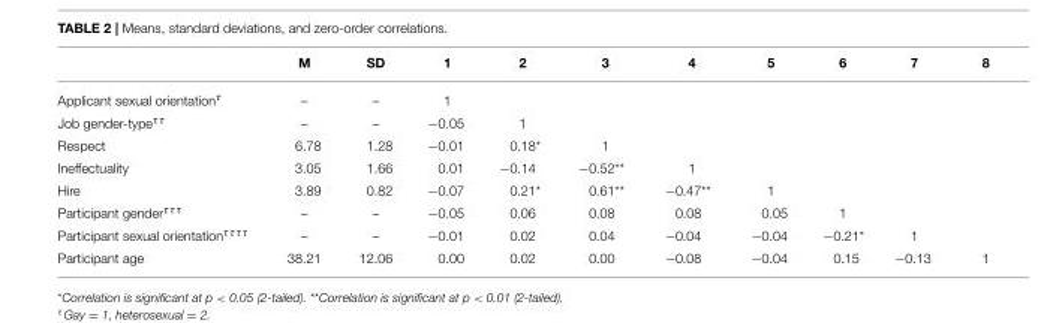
<table><thead><tr><td></td><td>M</td><td>SD</td><td>1</td><td>2</td><td>3</td><td>4</td><td>5</td><td>6</td><td>7</td><td>8</td></tr></thead><tbody><tr><td>Applicant sexual orientation<sup>τ</sup></td><td>–</td><td>–</td><td>1</td><td></td><td></td><td></td><td></td><td></td><td></td><td></td></tr><tr><td>Job gender-type<sup>ττ</sup></td><td>–</td><td>–</td><td>−0.05</td><td>1</td><td></td><td></td><td></td><td></td><td></td><td></td></tr><tr><td>Respect</td><td>6.78</td><td>1.28</td><td>−0.01</td><td>0.18*</td><td>1</td><td></td><td></td><td></td><td></td><td></td></tr><tr><td>Ineffectuality</td><td>3.05</td><td>1.66</td><td>0.01</td><td>−0.14</td><td>−0.52**</td><td>1</td><td></td><td></td><td></td><td></td></tr><tr><td>Hire</td><td>3.89</td><td>0.82</td><td>−0.07</td><td>0.21*</td><td>0.61**</td><td>−0.47**</td><td>1</td><td></td><td></td><td></td></tr><tr><td>Participant gender<sup>τττ</sup></td><td>–</td><td>–</td><td>−0.05</td><td>0.06</td><td>0.08</td><td>0.08</td><td>0.05</td><td>1</td><td></td><td></td></tr><tr><td>Participant sexual orientation<sup>ττττ</sup></td><td>–</td><td>–</td><td>−0.01</td><td>0.02</td><td>0.04</td><td>−0.04</td><td>−0.04</td><td>−0.21*</td><td>1</td><td></td></tr><tr><td>Participant age</td><td>38.21</td><td>12.06</td><td>0.00</td><td>0.02</td><td>0.00</td><td>−0.08</td><td>−0.04</td><td>0.15</td><td>−0.13</td><td>1</td></tr></tbody></table>